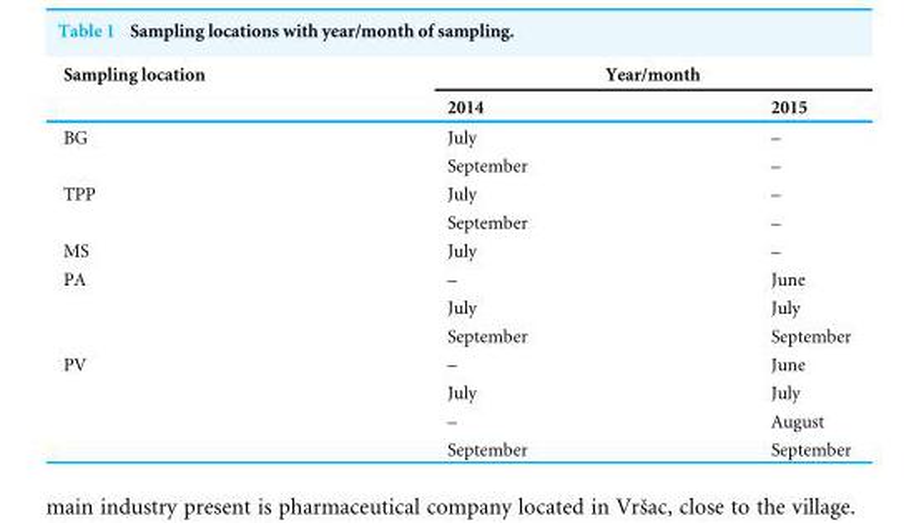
<table><thead><tr><td rowspan="2">Sampling location</td><td colspan="2">Year/month</td></tr><tr><td>2014</td><td>2015</td></tr></thead><tbody><tr><td rowspan="2">BG</td><td>July</td><td>–</td></tr><tr><td>September</td><td>–</td></tr><tr><td rowspan="2">TPP</td><td>July</td><td>–</td></tr><tr><td>September</td><td>–</td></tr><tr><td>MS</td><td>July</td><td>–</td></tr><tr><td rowspan="3">PA</td><td>–</td><td>June</td></tr><tr><td>July</td><td>July</td></tr><tr><td>September</td><td>September</td></tr><tr><td rowspan="4">PV</td><td>–</td><td>June</td></tr><tr><td>July</td><td>July</td></tr><tr><td>–</td><td>August</td></tr><tr><td>September</td><td>September</td></tr></tbody></table>